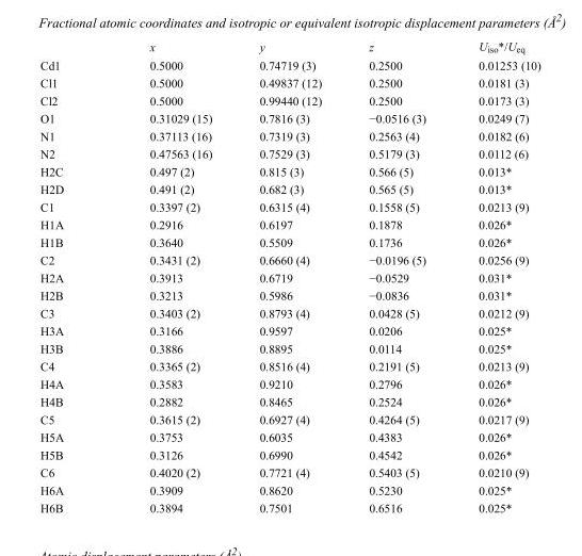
<table><thead><tr><td></td><td>x</td><td>y</td><td>z</td><td>U<sub>iso</sub>*/U<sub>eq</sub></td></tr></thead><tbody><tr><td>Cd1</td><td>0.5000</td><td>0.74719 (3)</td><td>0.2500</td><td>0.01253 (10)</td></tr><tr><td>Cl1</td><td>0.5000</td><td>0.49837 (12)</td><td>0.2500</td><td>0.0181 (3)</td></tr><tr><td>Cl2</td><td>0.5000</td><td>0.99440 (12)</td><td>0.2500</td><td>0.0173 (3)</td></tr><tr><td>O1</td><td>0.31029 (15)</td><td>0.7816 (3)</td><td>−0.0516 (3)</td><td>0.0249 (7)</td></tr><tr><td>N1</td><td>0.37113 (16)</td><td>0.7319 (3)</td><td>0.2563 (4)</td><td>0.0182 (6)</td></tr><tr><td>N2</td><td>0.47563 (16)</td><td>0.7529 (3)</td><td>0.5179 (3)</td><td>0.0112 (6)</td></tr><tr><td>H2C</td><td>0.497 (2)</td><td>0.815 (3)</td><td>0.566 (5)</td><td>0.013*</td></tr><tr><td>H2D</td><td>0.491 (2)</td><td>0.682 (3)</td><td>0.565 (5)</td><td>0.013*</td></tr><tr><td>C1</td><td>0.3397 (2)</td><td>0.6315 (4)</td><td>0.1558 (5)</td><td>0.0213 (9)</td></tr><tr><td>H1A</td><td>0.2916</td><td>0.6197</td><td>0.1878</td><td>0.026*</td></tr><tr><td>H1B</td><td>0.3640</td><td>0.5509</td><td>0.1736</td><td>0.026*</td></tr><tr><td>C2</td><td>0.3431 (2)</td><td>0.6660 (4)</td><td>−0.0196 (5)</td><td>0.0256 (9)</td></tr><tr><td>H2A</td><td>0.3913</td><td>0.6719</td><td>−0.0529</td><td>0.031*</td></tr><tr><td>H2B</td><td>0.3213</td><td>0.5986</td><td>−0.0836</td><td>0.031*</td></tr><tr><td>C3</td><td>0.3403 (2)</td><td>0.8793 (4)</td><td>0.0428 (5)</td><td>0.0212 (9)</td></tr><tr><td>H3A</td><td>0.3166</td><td>0.9597</td><td>0.0206</td><td>0.025*</td></tr><tr><td>H3B</td><td>0.3886</td><td>0.8895</td><td>0.0114</td><td>0.025*</td></tr><tr><td>C4</td><td>0.3365 (2)</td><td>0.8516 (4)</td><td>0.2191 (5)</td><td>0.0213 (9)</td></tr><tr><td>H4A</td><td>0.3583</td><td>0.9210</td><td>0.2796</td><td>0.026*</td></tr><tr><td>H4B</td><td>0.2882</td><td>0.8465</td><td>0.2524</td><td>0.026*</td></tr><tr><td>C5</td><td>0.3615 (2)</td><td>0.6927 (4)</td><td>0.4264 (5)</td><td>0.0217 (9)</td></tr><tr><td>H5A</td><td>0.3753</td><td>0.6035</td><td>0.4383</td><td>0.026*</td></tr><tr><td>H5B</td><td>0.3126</td><td>0.6990</td><td>0.4542</td><td>0.026*</td></tr><tr><td>C6</td><td>0.4020 (2)</td><td>0.7721 (4)</td><td>0.5403 (5)</td><td>0.0210 (9)</td></tr><tr><td>H6A</td><td>0.3909</td><td>0.8620</td><td>0.5230</td><td>0.025*</td></tr><tr><td>H6B</td><td>0.3894</td><td>0.7501</td><td>0.6516</td><td>0.025*</td></tr></tbody></table>